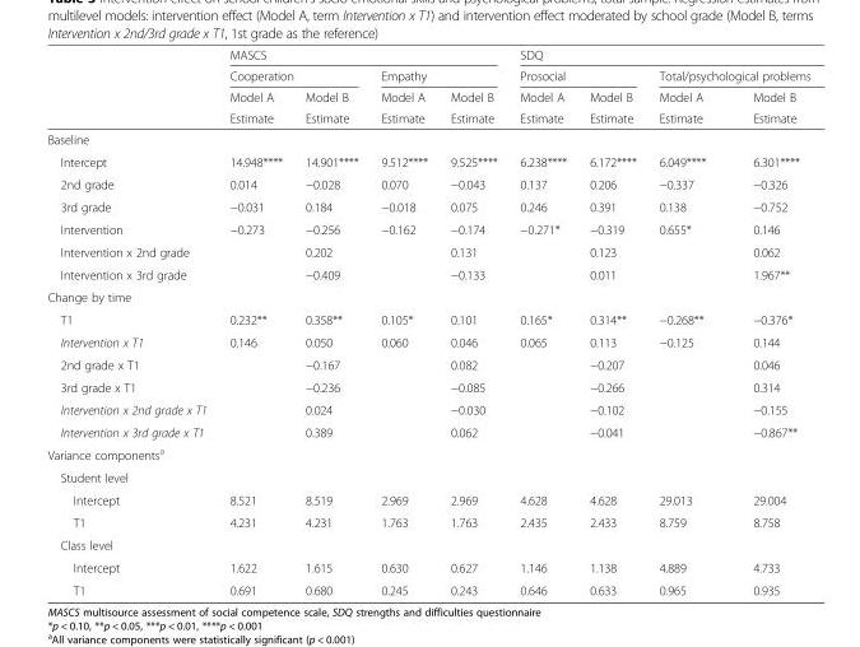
<table><thead><tr><td rowspan="4"></td><td colspan="4">MASCS</td><td colspan="4">SDQ</td></tr><tr><td colspan="2">Cooperation</td><td colspan="2">Empathy</td><td colspan="2">Prosocial</td><td colspan="2">Total/psychological problems</td></tr><tr><td rowspan="2">Model A Estimate</td><td rowspan="2">Model B Estimate</td><td rowspan="2">Model A Estimate</td><td rowspan="2">Model B Estimate</td><td rowspan="2">Model A Estimate</td><td rowspan="2">Model B Estimate</td><td rowspan="2">Model A Estimate</td><td rowspan="2">Model B Estimate</td></tr><tr></tr></thead><tbody><tr><td colspan="9">Baseline</td></tr><tr><td>Intercept</td><td>14.948****</td><td>14.901****</td><td>9.512****</td><td>9.525****</td><td>6.238****</td><td>6.172****</td><td>6.049****</td><td>6.301****</td></tr><tr><td>2nd grade</td><td>0.014</td><td>−0.028</td><td>0.070</td><td>−0.043</td><td>0.137</td><td>0.206</td><td>−0.337</td><td>−0.326</td></tr><tr><td>3rd grade</td><td>−0.031</td><td>0.184</td><td>−0.018</td><td>0.075</td><td>0.246</td><td>0.391</td><td>0.138</td><td>−0.752</td></tr><tr><td>Intervention</td><td>−0.273</td><td>−0.256</td><td>−0.162</td><td>−0.174</td><td>−0.271*</td><td>−0.319</td><td>0.655*</td><td>0.146</td></tr><tr><td>Intervention x 2nd grade</td><td></td><td>0.202</td><td></td><td>0.131</td><td></td><td>0.123</td><td></td><td>0.062</td></tr><tr><td>Intervention x 3rd grade</td><td></td><td>−0.409</td><td></td><td>−0.133</td><td></td><td>0.011</td><td></td><td>1.967**</td></tr><tr><td colspan="9">Change by time</td></tr><tr><td>T1</td><td>0.232**</td><td>0.358**</td><td>0.105*</td><td>0.101</td><td>0.165*</td><td>0.314**</td><td>−0.268**</td><td>−0.376*</td></tr><tr><td>Intervention x T1</td><td>0.146</td><td>0.050</td><td>0.060</td><td>0.046</td><td>0.065</td><td>0.113</td><td>−0.125</td><td>0.144</td></tr><tr><td>2nd grade x T1</td><td></td><td>−0.167</td><td></td><td>0.082</td><td></td><td>−0.207</td><td></td><td>0.046</td></tr><tr><td>3rd grade x T1</td><td></td><td>−0.236</td><td></td><td>−0.085</td><td></td><td>−0.266</td><td></td><td>0.314</td></tr><tr><td>Intervention x 2nd grade x T1</td><td></td><td>0.024</td><td></td><td>−0.030</td><td></td><td>−0.102</td><td></td><td>−0.155</td></tr><tr><td>Intervention x 3rd grade x T1</td><td></td><td>0.389</td><td></td><td>0.062</td><td></td><td>−0.041</td><td></td><td>−0.867**</td></tr><tr><td colspan="9">Variance components<sup>a</sup></td></tr><tr><td colspan="9">Student level</td></tr><tr><td>Intercept</td><td>8.521</td><td>8.519</td><td>2.969</td><td>2.969</td><td>4.628</td><td>4.628</td><td>29.013</td><td>29.004</td></tr><tr><td>T1</td><td>4.231</td><td>4.231</td><td>1.763</td><td>1.763</td><td>2.435</td><td>2.433</td><td>8.759</td><td>8.758</td></tr><tr><td colspan="9">Class level</td></tr><tr><td>Intercept</td><td>1.622</td><td>1.615</td><td>0.630</td><td>0.627</td><td>1.146</td><td>1.138</td><td>4.889</td><td>4.733</td></tr><tr><td>T1</td><td>0.691</td><td>0.680</td><td>0.245</td><td>0.243</td><td>0.646</td><td>0.633</td><td>0.965</td><td>0.935</td></tr></tbody></table>